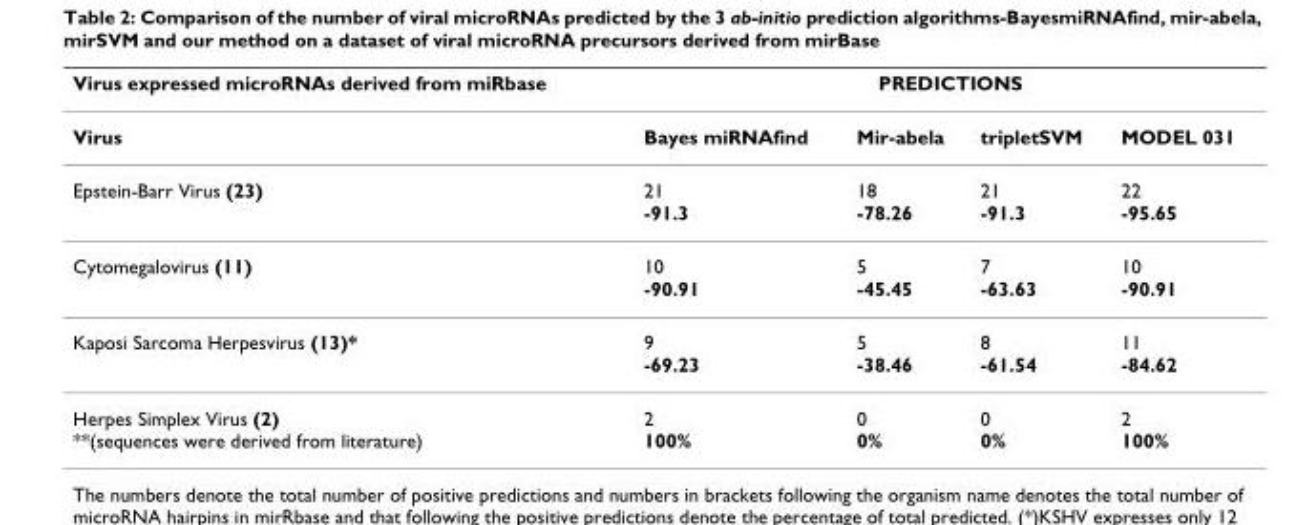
<table><thead><tr><td rowspan="2">Virus expressed microRNAs derived from miRbase Virus</td><td colspan="4">PREDICTIONS</td></tr><tr><td>Bayes miRNAfind</td><td>Mir-abela</td><td>tripletSVM</td><td>MODEL 031</td></tr></thead><tbody><tr><td>Epstein-Barr Virus (23)</td><td>21 -91.3</td><td>18 -78.26</td><td>21 -91.3</td><td>22 -95.65</td></tr><tr><td>Cytomegalovirus (11)</td><td>10 -90.91</td><td>5 -45.45</td><td>7 -63.63</td><td>10 -90.91</td></tr><tr><td>Kaposi Sarcoma Herpesvirus (13)*</td><td>9 -69.23</td><td>5 -38.46</td><td>8 -61.54</td><td>11 -84.62</td></tr><tr><td>Herpes Simplex Virus (2) **(sequences were derived from literature)</td><td>2 100%</td><td>0 0%</td><td>0 0%</td><td>2 100%</td></tr></tbody></table>